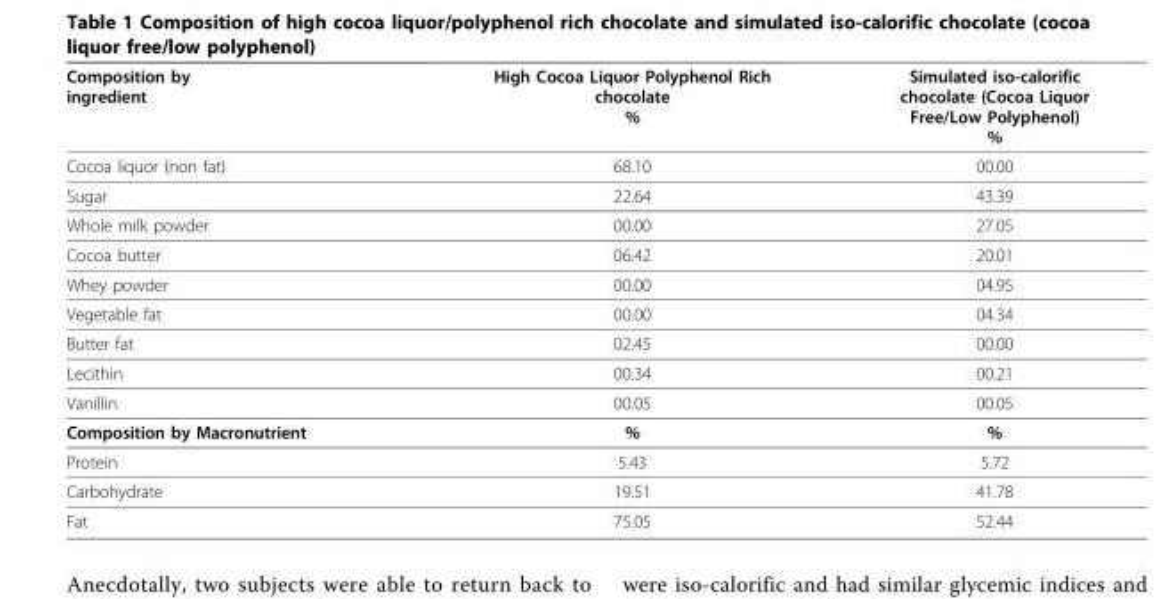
<table><thead><tr><td>Composition by ingredient</td><td>High Cocoa Liquor Polyphenol Rich chocolate %</td><td>Simulated iso-calorific chocolate (Cocoa Liquor Free/Low Polyphenol) %</td></tr></thead><tbody><tr><td>Cocoa liquor (non fat)</td><td>68.10</td><td>00.00</td></tr><tr><td>Sugar</td><td>22.64</td><td>43.39</td></tr><tr><td>Whole milk powder</td><td>00.00</td><td>27.05</td></tr><tr><td>Cocoa butter</td><td>06.42</td><td>20.01</td></tr><tr><td>Whey powder</td><td>00.00</td><td>04.95</td></tr><tr><td>Vegetable fat</td><td>00.00</td><td>04.34</td></tr><tr><td>Butter fat</td><td>02.45</td><td>00.00</td></tr><tr><td>Lecithin</td><td>00.34</td><td>00.21</td></tr><tr><td>Vanillin</td><td>00.05</td><td>00.05</td></tr><tr><td>Composition by Macronutrient</td><td>%</td><td>%</td></tr><tr><td>Protein</td><td>5.43</td><td>5.72</td></tr><tr><td>Carbohydrate</td><td>19.51</td><td>41.78</td></tr><tr><td>Fat</td><td>75.05</td><td>52.44</td></tr></tbody></table>